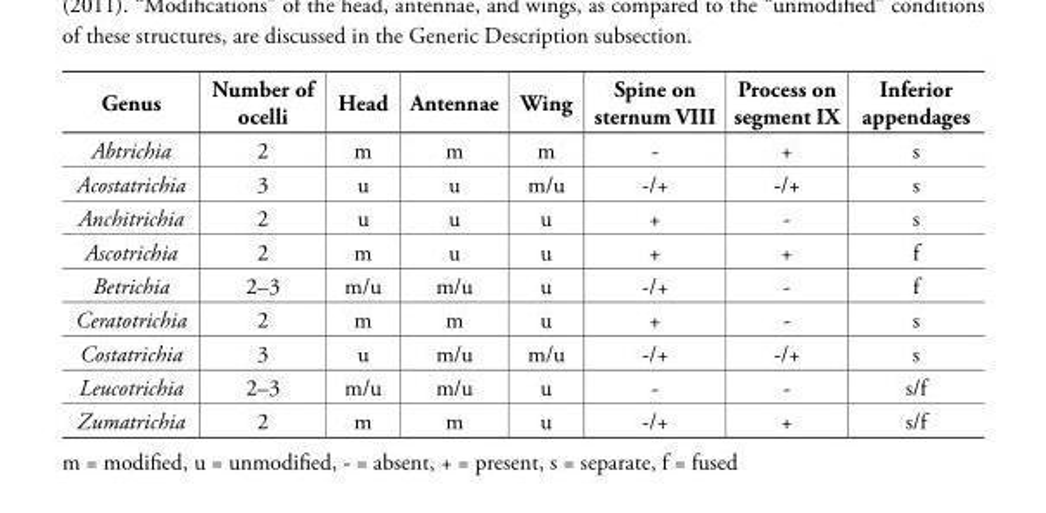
<table><thead><tr><td>Genus</td><td>Number of ocelli</td><td>Head</td><td>Antennae</td><td>Wing</td><td>Spine on sternum VIII</td><td>Process on segment IX</td><td>Inferior appendages</td></tr></thead><tbody><tr><td>Abtrichia</td><td>2</td><td>m</td><td>m</td><td>m</td><td>-</td><td>+</td><td>s</td></tr><tr><td>Acostatrichia</td><td>3</td><td>u</td><td>u</td><td>m/u</td><td>-/+</td><td>-/+</td><td>s</td></tr><tr><td>Anchitrichia</td><td>2</td><td>u</td><td>u</td><td>u</td><td>+</td><td>-</td><td>s</td></tr><tr><td>Ascotrichia</td><td>2</td><td>m</td><td>u</td><td>u</td><td>+</td><td>+</td><td>f</td></tr><tr><td>Betrichia</td><td>2–3</td><td>m/u</td><td>m/u</td><td>u</td><td>-/+</td><td>-</td><td>f</td></tr><tr><td>Ceratotrichia</td><td>2</td><td>m</td><td>m</td><td>u</td><td>+</td><td>-</td><td>s</td></tr><tr><td>Costatrichia</td><td>3</td><td>u</td><td>m/u</td><td>m/u</td><td>-/+</td><td>-/+</td><td>s</td></tr><tr><td>Leucotrichia</td><td>2–3</td><td>m/u</td><td>m/u</td><td>u</td><td>-</td><td>-</td><td>s/f</td></tr><tr><td>Zumatrichia</td><td>2</td><td>m</td><td>m</td><td>u</td><td>-/+</td><td>+</td><td>s/f</td></tr></tbody></table>